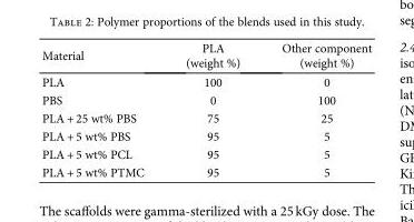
<table><thead><tr><td>Material</td><td>PLA (weight %)</td><td>Other component (weight %)</td></tr></thead><tbody><tr><td>PLA</td><td>100</td><td>0</td></tr><tr><td>PBS</td><td>0</td><td>100</td></tr><tr><td>PLA + 25 wt% PBS</td><td>75</td><td>25</td></tr><tr><td>PLA + 5 wt% PBS</td><td>95</td><td>5</td></tr><tr><td>PLA + 5 wt% PCL</td><td>95</td><td>5</td></tr><tr><td>PLA + 5 wt% PTMC</td><td>95</td><td>5</td></tr></tbody></table>